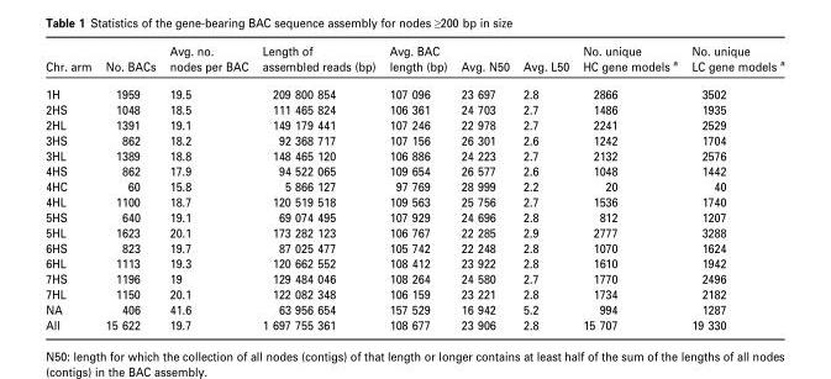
<table><thead><tr><td>Chr. arm</td><td>No. BACs</td><td>Avg. no. nodes per BAC</td><td>Length of assembled reads (bp)</td><td>Avg. BAC length (bp)</td><td>Avg. N50</td><td>Avg. L50</td><td>No. unique HC gene models a</td><td>No. unique LC gene models a</td></tr></thead><tbody><tr><td>1H</td><td>1959</td><td>19.5</td><td>209 800 854</td><td>107 096</td><td>23 697</td><td>2.8</td><td>2866</td><td>3502</td></tr><tr><td>2HS</td><td>1048</td><td>18.5</td><td>111 465 824</td><td>106 361</td><td>24 703</td><td>2.7</td><td>1486</td><td>1935</td></tr><tr><td>2HL</td><td>1391</td><td>19.1</td><td>149 179 441</td><td>107 246</td><td>22 978</td><td>2.7</td><td>2241</td><td>2529</td></tr><tr><td>3HS</td><td>862</td><td>18.2</td><td>92 368 717</td><td>107 156</td><td>26 301</td><td>2.6</td><td>1242</td><td>1704</td></tr><tr><td>3HL</td><td>1389</td><td>18.8</td><td>148 465 120</td><td>106 886</td><td>24 223</td><td>2.7</td><td>2132</td><td>2576</td></tr><tr><td>4HS</td><td>862</td><td>17.9</td><td>94 522 065</td><td>109 654</td><td>26 577</td><td>2.6</td><td>1048</td><td>1442</td></tr><tr><td>4HC</td><td>60</td><td>15.8</td><td>5 866 127</td><td>97 769</td><td>28 999</td><td>2.2</td><td>20</td><td>40</td></tr><tr><td>4HL</td><td>1100</td><td>18.7</td><td>120 519 518</td><td>109 563</td><td>25 756</td><td>2.7</td><td>1536</td><td>1740</td></tr><tr><td>5HS</td><td>640</td><td>19.1</td><td>69 074 495</td><td>107 929</td><td>24 696</td><td>2.8</td><td>812</td><td>1207</td></tr><tr><td>5HL</td><td>1623</td><td>20.1</td><td>173 282 123</td><td>106 767</td><td>22 285</td><td>2.9</td><td>2777</td><td>3288</td></tr><tr><td>6HS</td><td>823</td><td>19.7</td><td>87 025 477</td><td>105 742</td><td>22 248</td><td>2.8</td><td>1070</td><td>1624</td></tr><tr><td>6HL</td><td>1113</td><td>19.3</td><td>120 662 552</td><td>108 412</td><td>23 922</td><td>2.8</td><td>1610</td><td>1942</td></tr><tr><td>7HS</td><td>1196</td><td>19</td><td>129 484 046</td><td>108 264</td><td>24 580</td><td>2.7</td><td>1770</td><td>2496</td></tr><tr><td>7HL</td><td>1150</td><td>20.1</td><td>122 082 348</td><td>106 159</td><td>23 221</td><td>2.8</td><td>1734</td><td>2182</td></tr><tr><td>NA</td><td>406</td><td>41.6</td><td>63 956 654</td><td>157 529</td><td>16 942</td><td>5.2</td><td>994</td><td>1287</td></tr><tr><td>All</td><td>15 622</td><td>19.7</td><td>1 697 755 361</td><td>108 677</td><td>23 906</td><td>2.8</td><td>15 707</td><td>19 330</td></tr></tbody></table>